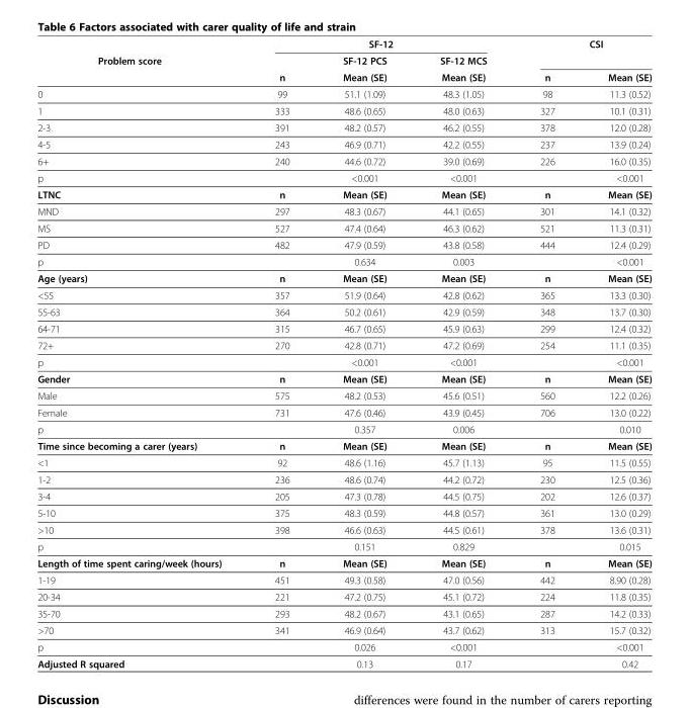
<table><thead><tr><td rowspan="3">Problem score</td><td colspan="3">SF-12</td><td rowspan="2" colspan="2">CSI</td></tr><tr><td rowspan="2">n</td><td rowspan="2">SF-12 PCS Mean (SE)</td><td rowspan="2">SF-12 MCS Mean (SE)</td></tr><tr><td>n</td><td>Mean (SE)</td></tr></thead><tbody><tr><td>0</td><td>99</td><td>51.1 (1.09)</td><td>48.3 (1.05)</td><td>98</td><td>11.3 (0.52)</td></tr><tr><td>1</td><td>333</td><td>48.6 (0.65)</td><td>48.0 (0.63)</td><td>327</td><td>10.1 (0.31)</td></tr><tr><td>2-3</td><td>391</td><td>48.2 (0.57)</td><td>46.2 (0.55)</td><td>378</td><td>12.0 (0.28)</td></tr><tr><td>4-5</td><td>243</td><td>46.9 (0.71)</td><td>42.2 (0.55)</td><td>237</td><td>13.9 (0.24)</td></tr><tr><td>6+</td><td>240</td><td>44.6 (0.72)</td><td>39.0 (0.69)</td><td>226</td><td>16.0 (0.35)</td></tr><tr><td>p</td><td></td><td>&lt;0.001</td><td>&lt;0.001</td><td></td><td>&lt;0.001</td></tr><tr><td>LTNC</td><td>n</td><td>Mean (SE)</td><td>Mean (SE)</td><td>n</td><td>Mean (SE)</td></tr><tr><td>MND</td><td>297</td><td>48.3 (0.67)</td><td>44.1 (0.65)</td><td>301</td><td>14.1 (0.32)</td></tr><tr><td>MS</td><td>527</td><td>47.4 (0.64)</td><td>46.3 (0.62)</td><td>521</td><td>11.3 (0.31)</td></tr><tr><td>PD</td><td>482</td><td>47.9 (0.59)</td><td>43.8 (0.58)</td><td>444</td><td>12.4 (0.29)</td></tr><tr><td>p</td><td></td><td>0.634</td><td>0.003</td><td></td><td>&lt;0.001</td></tr><tr><td>Age (years)</td><td>n</td><td>Mean (SE)</td><td>Mean (SE)</td><td>n</td><td>Mean (SE)</td></tr><tr><td>&lt;55</td><td>357</td><td>51.9 (0.64)</td><td>42.8 (0.62)</td><td>365</td><td>13.3 (0.30)</td></tr><tr><td>55-63</td><td>364</td><td>50.2 (0.61)</td><td>42.9 (0.59)</td><td>348</td><td>13.7 (0.30)</td></tr><tr><td>64-71</td><td>315</td><td>46.7 (0.65)</td><td>45.9 (0.63)</td><td>299</td><td>12.4 (0.32)</td></tr><tr><td>72+</td><td>270</td><td>42.8 (0.71)</td><td>47.2 (0.69)</td><td>254</td><td>11.1 (0.35)</td></tr><tr><td>p</td><td></td><td>&lt;0.001</td><td>&lt;0.001</td><td></td><td>&lt;0.001</td></tr><tr><td>Gender</td><td>n</td><td>Mean (SE)</td><td>Mean (SE)</td><td>n</td><td>Mean (SE)</td></tr><tr><td>Male</td><td>575</td><td>48.2 (0.53)</td><td>45.6 (0.51)</td><td>560</td><td>12.2 (0.26)</td></tr><tr><td>Female</td><td>731</td><td>47.6 (0.46)</td><td>43.9 (0.45)</td><td>706</td><td>13.0 (0.22)</td></tr><tr><td>p</td><td></td><td>0.357</td><td>0.006</td><td></td><td>0.010</td></tr><tr><td>Time since becoming a carer (years)</td><td>n</td><td>Mean (SE)</td><td>Mean (SE)</td><td>n</td><td>Mean (SE)</td></tr><tr><td>&lt;1</td><td>92</td><td>48.6 (1.16)</td><td>45.7 (1.13)</td><td>95</td><td>11.5 (0.55)</td></tr><tr><td>1-2</td><td>236</td><td>48.6 (0.74)</td><td>44.2 (0.72)</td><td>230</td><td>12.5 (0.36)</td></tr><tr><td>3-4</td><td>205</td><td>47.3 (0.78)</td><td>44.5 (0.75)</td><td>202</td><td>12.6 (0.37)</td></tr><tr><td>5-10</td><td>375</td><td>48.3 (0.59)</td><td>44.8 (0.57)</td><td>361</td><td>13.0 (0.29)</td></tr><tr><td>&gt;10</td><td>398</td><td>46.6 (0.63)</td><td>44.5 (0.61)</td><td>378</td><td>13.6 (0.31)</td></tr><tr><td>p</td><td></td><td>0.151</td><td>0.829</td><td></td><td>0.015</td></tr><tr><td>Length of time spent caring/week (hours)</td><td>n</td><td>Mean (SE)</td><td>Mean (SE)</td><td>n</td><td>Mean (SE)</td></tr><tr><td>1-19</td><td>451</td><td>49.3 (0.58)</td><td>47.0 (0.56)</td><td>442</td><td>8.90 (0.28)</td></tr><tr><td>20-34</td><td>221</td><td>47.2 (0.75)</td><td>45.1 (0.72)</td><td>224</td><td>11.8 (0.35)</td></tr><tr><td>35-70</td><td>293</td><td>48.2 (0.67)</td><td>43.1 (0.65)</td><td>287</td><td>14.2 (0.33)</td></tr><tr><td>&gt;70</td><td>341</td><td>46.9 (0.64)</td><td>43.7 (0.62)</td><td>313</td><td>15.7 (0.32)</td></tr><tr><td>p</td><td></td><td>0.026</td><td>&lt;0.001</td><td></td><td>&lt;0.001</td></tr><tr><td>Adjusted R squared</td><td></td><td>0.13</td><td>0.17</td><td></td><td>0.42</td></tr></tbody></table>